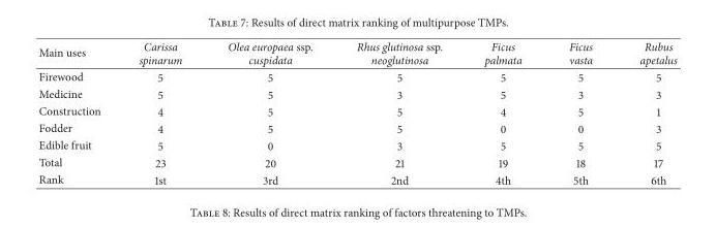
<table><thead><tr><td>Main uses</td><td>Carissa spinarum</td><td>Olea europaea ssp. cuspidata</td><td>Rhus glutinosa ssp. neoglutinosa</td><td>Ficus palmata</td><td>Ficus vasta</td><td>Rubus apetalus</td></tr></thead><tbody><tr><td>Firewood</td><td>5</td><td>5</td><td>5</td><td>5</td><td>5</td><td>5</td></tr><tr><td>Medicine</td><td>5</td><td>5</td><td>3</td><td>5</td><td>3</td><td>3</td></tr><tr><td>Construction</td><td>4</td><td>5</td><td>5</td><td>4</td><td>5</td><td>1</td></tr><tr><td>Fodder</td><td>4</td><td>5</td><td>5</td><td>0</td><td>0</td><td>3</td></tr><tr><td>Edible fruit</td><td>5</td><td>0</td><td>3</td><td>5</td><td>5</td><td>5</td></tr><tr><td>Total</td><td>23</td><td>20</td><td>21</td><td>19</td><td>18</td><td>17</td></tr><tr><td>Rank</td><td>1st</td><td>3rd</td><td>2nd</td><td>4th</td><td>5th</td><td>6th</td></tr></tbody></table>